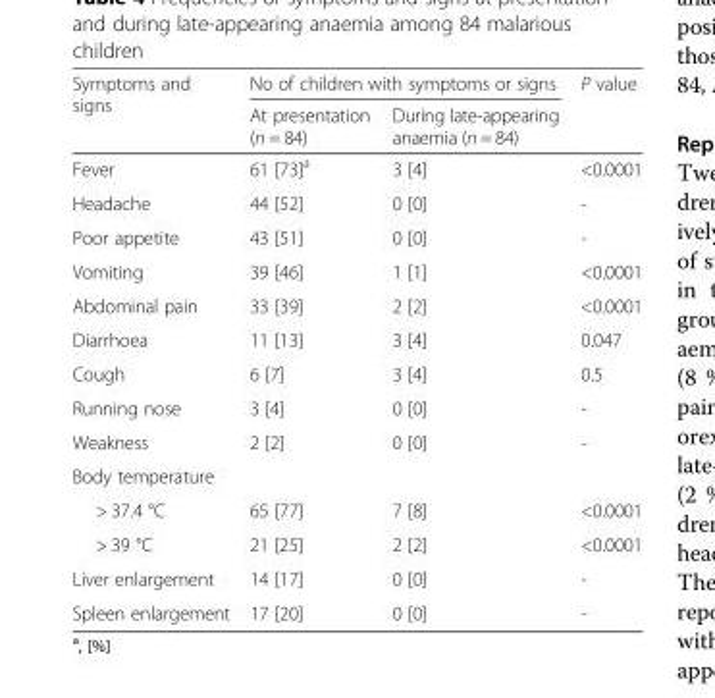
<table><thead><tr><td rowspan="2">Symptoms and signs</td><td colspan="2">No of children with symptoms or signs</td><td rowspan="2">P value</td></tr><tr><td>At presentation (n = 84)</td><td>During late-appearing anaemia (n = 84)</td></tr></thead><tbody><tr><td>Fever</td><td>61 [73]<sup>a</sup></td><td>3 [4]</td><td>&lt;0.0001</td></tr><tr><td>Headache</td><td>44 [52]</td><td>0 [0]</td><td>-</td></tr><tr><td>Poor appetite</td><td>43 [51]</td><td>0 [0]</td><td>-</td></tr><tr><td>Vomiting</td><td>39 [46]</td><td>1 [1]</td><td>&lt;0.0001</td></tr><tr><td>Abdominal pain</td><td>33 [39]</td><td>2 [2]</td><td>&lt;0.0001</td></tr><tr><td>Diarrhoea</td><td>11 [13]</td><td>3 [4]</td><td>0.047</td></tr><tr><td>Cough</td><td>6 [7]</td><td>3 [4]</td><td>0.5</td></tr><tr><td>Running nose</td><td>3 [4]</td><td>0 [0]</td><td>-</td></tr><tr><td>Weakness</td><td>2 [2]</td><td>0 [0]</td><td>-</td></tr><tr><td colspan="4">Body temperature</td></tr><tr><td>&gt; 37.4 °C</td><td>65 [77]</td><td>7 [8]</td><td>&lt;0.0001</td></tr><tr><td>&gt; 39 °C</td><td>21 [25]</td><td>2 [2]</td><td>&lt;0.0001</td></tr><tr><td>Liver enlargement</td><td>14 [17]</td><td>0 [0]</td><td>-</td></tr><tr><td>Spleen enlargement</td><td>17 [20]</td><td>0 [0]</td><td>-</td></tr></tbody></table>